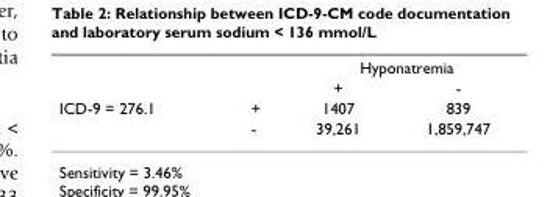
<table><thead><tr><td></td><td></td><td colspan="2">Hyponatremia</td></tr><tr><td colspan="2"></td><td>+</td><td>-</td></tr></thead><tbody><tr><td rowspan="2">ICD-9 = 276.1</td><td>+</td><td>1407</td><td>839</td></tr><tr><td>-</td><td>39,261</td><td>1,859,747</td></tr></tbody></table>